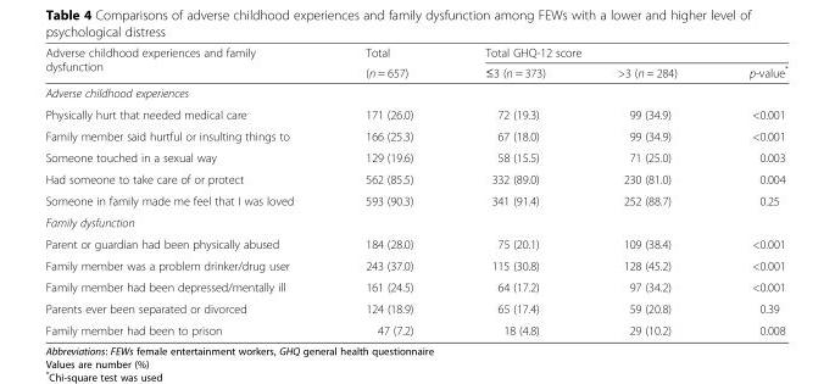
<table><thead><tr><td rowspan="2">Adverse childhood experiences and family dysfunction</td><td rowspan="2">Total (n = 657)</td><td colspan="3">Total GHQ-12 score</td></tr><tr><td>≤3 (n = 373)</td><td>&gt;3 (n = 284)</td><td>p-value*</td></tr></thead><tbody><tr><td colspan="5">Adverse childhood experiences</td></tr><tr><td>Physically hurt that needed medical care</td><td>171 (26.0)</td><td>72 (19.3)</td><td>99 (34.9)</td><td>&lt;0.001</td></tr><tr><td>Family member said hurtful or insulting things to</td><td>166 (25.3)</td><td>67 (18.0)</td><td>99 (34.9)</td><td>&lt;0.001</td></tr><tr><td>Someone touched in a sexual way</td><td>129 (19.6)</td><td>58 (15.5)</td><td>71 (25.0)</td><td>0.003</td></tr><tr><td>Had someone to take care of or protect</td><td>562 (85.5)</td><td>332 (89.0)</td><td>230 (81.0)</td><td>0.004</td></tr><tr><td>Someone in family made me feel that I was loved</td><td>593 (90.3)</td><td>341 (91.4)</td><td>252 (88.7)</td><td>0.25</td></tr><tr><td colspan="5">Family dysfunction</td></tr><tr><td>Parent or guardian had been physically abused</td><td>184 (28.0)</td><td>75 (20.1)</td><td>109 (38.4)</td><td>&lt;0.001</td></tr><tr><td>Family member was a problem drinker/drug user</td><td>243 (37.0)</td><td>115 (30.8)</td><td>128 (45.2)</td><td>&lt;0.001</td></tr><tr><td>Family member had been depressed/mentally ill</td><td>161 (24.5)</td><td>64 (17.2)</td><td>97 (34.2)</td><td>&lt;0.001</td></tr><tr><td>Parents ever been separated or divorced</td><td>124 (18.9)</td><td>65 (17.4)</td><td>59 (20.8)</td><td>0.39</td></tr><tr><td>Family member had been to prison</td><td>47 (7.2)</td><td>18 (4.8)</td><td>29 (10.2)</td><td>0.008</td></tr></tbody></table>